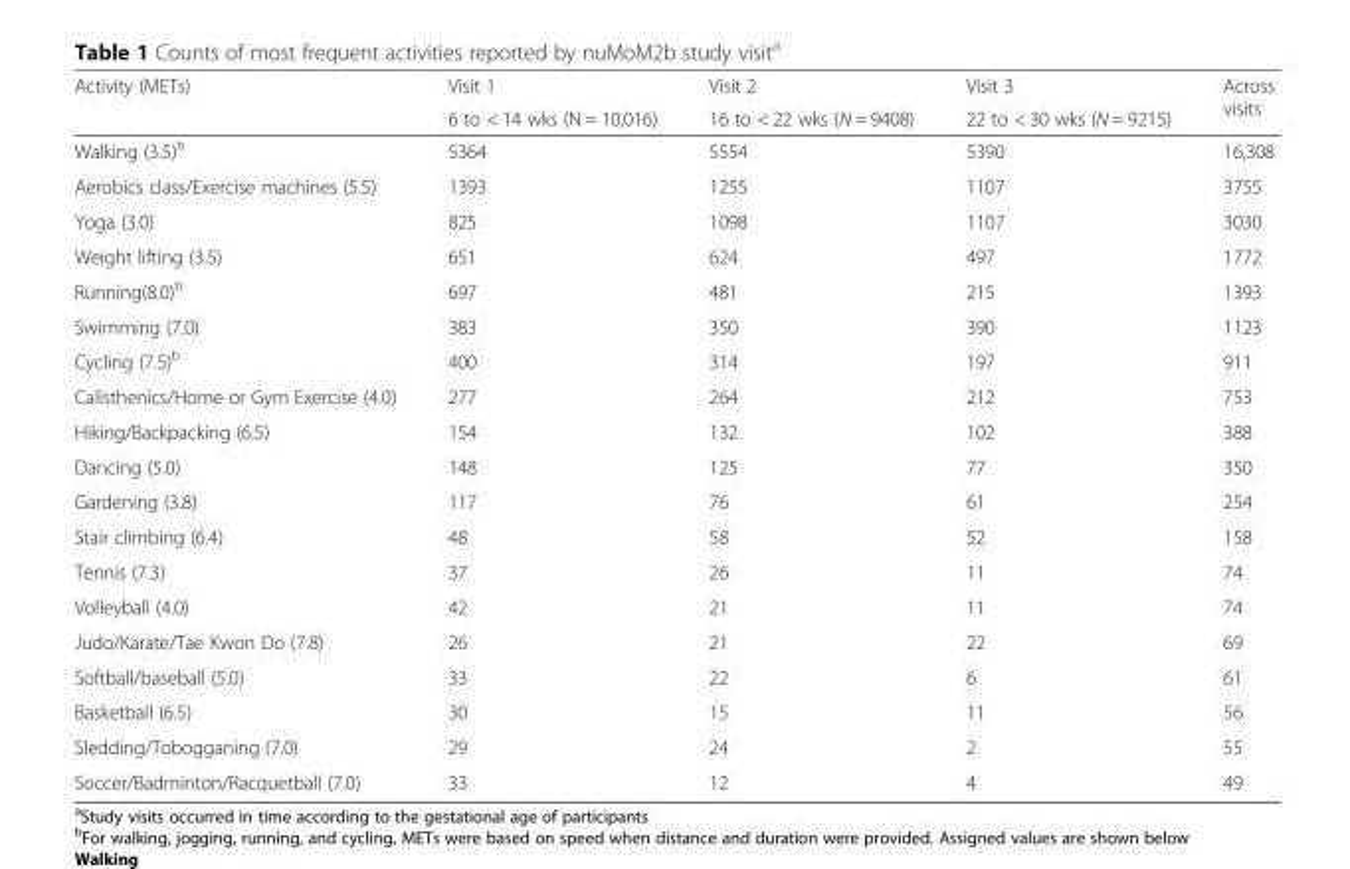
<table><thead><tr><td rowspan="2">Activity (METs)</td><td rowspan="2">Visit 1 6 to &lt; 14 wks (N = 10,016)</td><td rowspan="2">Visit 2 16 to &lt; 22 wks (N = 9408)</td><td rowspan="2">Visit 3 22 to &lt; 30 wks (N = 9215)</td><td rowspan="2">Across visits</td></tr><tr></tr></thead><tbody><tr><td>Walking (3.5)<sup>b</sup></td><td>5364</td><td>5554</td><td>5390</td><td>16,308</td></tr><tr><td>Aerobics class/Exercise machines (5.5)</td><td>1393</td><td>1255</td><td>1107</td><td>3755</td></tr><tr><td>Yoga (3.0)</td><td>825</td><td>1098</td><td>1107</td><td>3030</td></tr><tr><td>Weight lifting (3.5)</td><td>651</td><td>624</td><td>497</td><td>1772</td></tr><tr><td>Running(8.0)<sup>b</sup></td><td>697</td><td>481</td><td>215</td><td>1393</td></tr><tr><td>Swimming (7.0)</td><td>383</td><td>350</td><td>390</td><td>1123</td></tr><tr><td>Cycling (7.5)<sup>b</sup></td><td>400</td><td>314</td><td>197</td><td>911</td></tr><tr><td>Calisthenics/Home or Gym Exercise (4.0)</td><td>277</td><td>264</td><td>212</td><td>753</td></tr><tr><td>Hiking/Backpacking (6.5)</td><td>154</td><td>132</td><td>102</td><td>388</td></tr><tr><td>Dancing (5.0)</td><td>148</td><td>125</td><td>77</td><td>350</td></tr><tr><td>Gardening (3.8)</td><td>117</td><td>76</td><td>61</td><td>254</td></tr><tr><td>Stair climbing (6.4)</td><td>48</td><td>58</td><td>52</td><td>158</td></tr><tr><td>Tennis (7.3)</td><td>37</td><td>26</td><td>11</td><td>74</td></tr><tr><td>Volleyball (4.0)</td><td>42</td><td>21</td><td>11</td><td>74</td></tr><tr><td>Judo/Karate/Tae Kwon Do (7.8)</td><td>26</td><td>21</td><td>22</td><td>69</td></tr><tr><td>Softball/baseball (5.0)</td><td>33</td><td>22</td><td>6</td><td>61</td></tr><tr><td>Basketball (6.5)</td><td>30</td><td>15</td><td>11</td><td>56</td></tr><tr><td>Sledding/Tobogganing (7.0)</td><td>29</td><td>24</td><td>2</td><td>55</td></tr><tr><td>Soccer/Badminton/Racquetball (7.0)</td><td>33</td><td>12</td><td>4</td><td>49</td></tr></tbody></table>